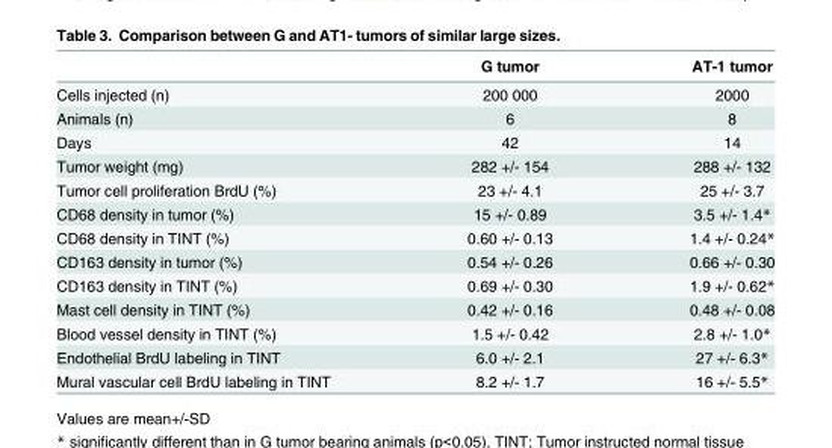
<table><thead><tr><td></td><td>G tumor</td><td>AT-1 tumor</td></tr></thead><tbody><tr><td>Cells injected (n)</td><td>200 000</td><td>2000</td></tr><tr><td>Animals (n)</td><td>6</td><td>8</td></tr><tr><td>Days</td><td>42</td><td>14</td></tr><tr><td>Tumor weight (mg)</td><td>282 +/- 154</td><td>288 +/- 132</td></tr><tr><td>Tumor cell proliferation BrdU (%)</td><td>23 +/- 4.1</td><td>25 +/- 3.7</td></tr><tr><td>CD68 density in tumor (%)</td><td>15 +/- 0.89</td><td>3.5 +/- 1.4*</td></tr><tr><td>CD68 density in TINT (%)</td><td>0.60 +/- 0.13</td><td>1.4 +/- 0.24*</td></tr><tr><td>CD163 density in tumor (%)</td><td>0.54 +/- 0.26</td><td>0.66 +/- 0.30</td></tr><tr><td>CD163 density in TINT (%)</td><td>0.69 +/- 0.30</td><td>1.9 +/- 0.62*</td></tr><tr><td>Mast cell density in TINT (%)</td><td>0.42 +/- 0.16</td><td>0.48 +/- 0.08</td></tr><tr><td>Blood vessel density in TINT (%)</td><td>1.5 +/- 0.42</td><td>2.8 +/- 1.0*</td></tr><tr><td>Endothelial BrdU labeling in TINT</td><td>6.0 +/- 2.1</td><td>27 +/- 6.3*</td></tr><tr><td>Mural vascular cell BrdU labeling in TINT</td><td>8.2 +/- 1.7</td><td>16 +/- 5.5*</td></tr></tbody></table>